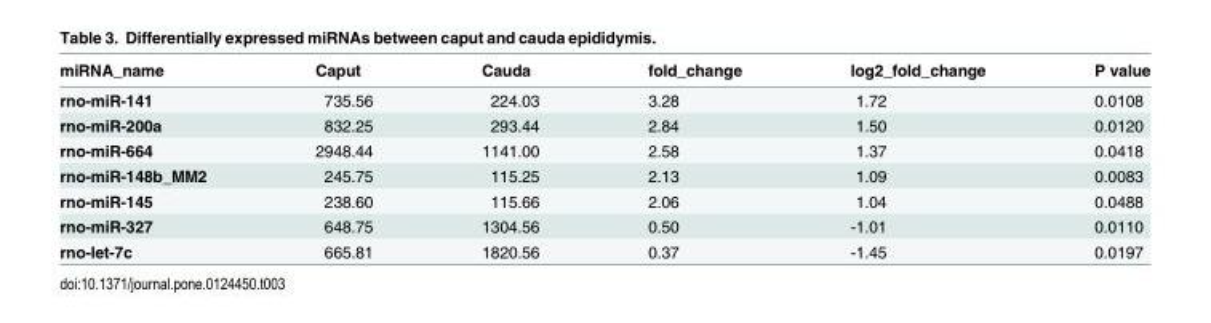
<table><thead><tr><td>miRNA_name</td><td>Caput</td><td>Cauda</td><td>fold_change</td><td>log2_fold_change</td><td>P value</td></tr></thead><tbody><tr><td>rno-miR-141</td><td>735.56</td><td>224.03</td><td>3.28</td><td>1.72</td><td>0.0108</td></tr><tr><td>rno-miR-200a</td><td>832.25</td><td>293.44</td><td>2.84</td><td>1.50</td><td>0.0120</td></tr><tr><td>rno-miR-664</td><td>2948.44</td><td>1141.00</td><td>2.58</td><td>1.37</td><td>0.0418</td></tr><tr><td>rno-miR-148b_MM2</td><td>245.75</td><td>115.25</td><td>2.13</td><td>1.09</td><td>0.0083</td></tr><tr><td>rno-miR-145</td><td>238.60</td><td>115.66</td><td>2.06</td><td>1.04</td><td>0.0488</td></tr><tr><td>rno-miR-327</td><td>648.75</td><td>1304.56</td><td>0.50</td><td>-1.01</td><td>0.0110</td></tr><tr><td>rno-let-7c</td><td>665.81</td><td>1820.56</td><td>0.37</td><td>-1.45</td><td>0.0197</td></tr></tbody></table>